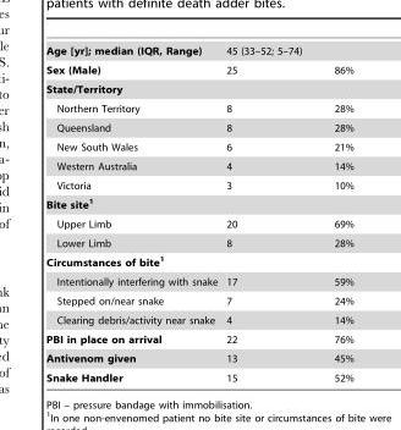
<table><tbody><tr><td>Age [yr]; median (IQR, Range)</td><td colspan="2">45 (33–52; 5–74)</td></tr><tr><td>Sex (Male)</td><td>25</td><td>86%</td></tr><tr><td colspan="3">State/Territory</td></tr><tr><td>Northern Territory</td><td>8</td><td>28%</td></tr><tr><td>Queensland</td><td>8</td><td>28%</td></tr><tr><td>New South Wales</td><td>6</td><td>21%</td></tr><tr><td>Western Australia</td><td>4</td><td>14%</td></tr><tr><td>Victoria</td><td>3</td><td>10%</td></tr><tr><td colspan="3">Bite site1</td></tr><tr><td>Upper Limb</td><td>20</td><td>69%</td></tr><tr><td>Lower Limb</td><td>8</td><td>28%</td></tr><tr><td colspan="3">Circumstances of bite1</td></tr><tr><td>Intentionally interfering with snake</td><td>17</td><td>59%</td></tr><tr><td>Stepped on/near snake</td><td>7</td><td>24%</td></tr><tr><td>Clearing debris/activity near snake</td><td>4</td><td>14%</td></tr><tr><td>PBI in place on arrival</td><td>22</td><td>76%</td></tr><tr><td>Antivenom given</td><td>13</td><td>45%</td></tr><tr><td>Snake Handler</td><td>15</td><td>52%</td></tr></tbody></table>